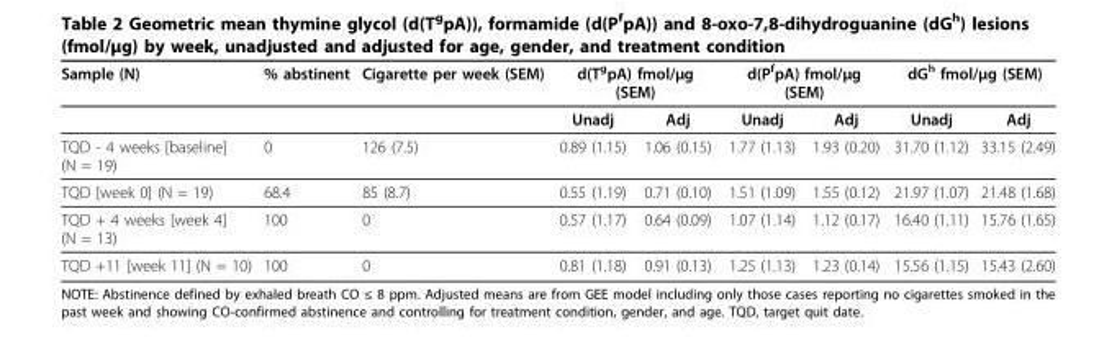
<table><thead><tr><td rowspan="2">Sample (N)</td><td rowspan="2">% abstinent</td><td rowspan="2">Cigarette per week (SEM)</td><td colspan="2">d(T<sup>g</sup>pA) fmol/μg (SEM)</td><td colspan="2">d(P<sup>f</sup>pA) fmol/μg (SEM)</td><td colspan="2">dG<sup>h</sup> fmol/μg (SEM)</td></tr><tr><td>Unadj</td><td>Adj</td><td>Unadj</td><td>Adj</td><td>Unadj</td><td>Adj</td></tr></thead><tbody><tr><td>TQD - 4 weeks [baseline] (N = 19)</td><td>0</td><td>126 (7.5)</td><td>0.89 (1.15)</td><td>1.06 (0.15)</td><td>1.77 (1.13)</td><td>1.93 (0.20)</td><td>31.70 (1.12)</td><td>33.15 (2.49)</td></tr><tr><td>TQD [week 0] (N = 19)</td><td>68.4</td><td>85 (8.7)</td><td>0.55 (1.19)</td><td>0.71 (0.10)</td><td>1.51 (1.09)</td><td>1.55 (0.12)</td><td>21.97 (1.07)</td><td>21.48 (1.68)</td></tr><tr><td>TQD + 4 weeks [week 4] (N = 13)</td><td>100</td><td>0</td><td>0.57 (1.17)</td><td>0.64 (0.09)</td><td>1.07 (1.14)</td><td>1.12 (0.17)</td><td>16.40 (1.11)</td><td>15.76 (1.65)</td></tr><tr><td>TQD +11 [week 11] (N = 10)</td><td>100</td><td>0</td><td>0.81 (1.18)</td><td>0.91 (0.13)</td><td>1.25 (1.13)</td><td>1.23 (0.14)</td><td>15.56 (1.15)</td><td>15.43 (2.60)</td></tr></tbody></table>